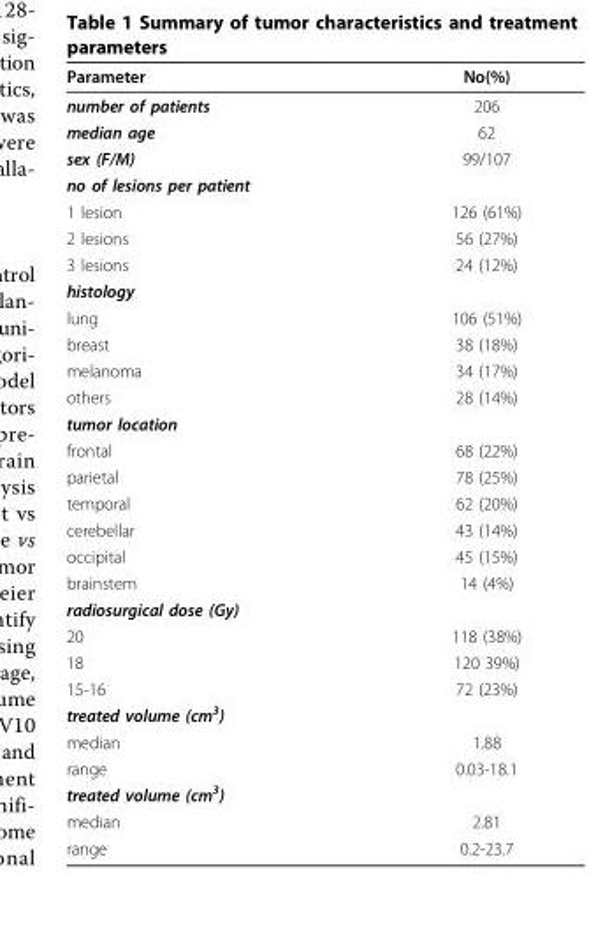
<table><thead><tr><td>Parameter</td><td>No(%)</td></tr></thead><tbody><tr><td>number of patients</td><td>206</td></tr><tr><td>median age</td><td>62</td></tr><tr><td>sex (F/M)</td><td>99/107</td></tr><tr><td colspan="2">no of lesions per patient</td></tr><tr><td>1 lesion</td><td>126 (61%)</td></tr><tr><td>2 lesions</td><td>56 (27%)</td></tr><tr><td>3 lesions</td><td>24 (12%)</td></tr><tr><td colspan="2">histology</td></tr><tr><td>lung</td><td>106 (51%)</td></tr><tr><td>breast</td><td>38 (18%)</td></tr><tr><td>melanoma</td><td>34 (17%)</td></tr><tr><td>others</td><td>28 (14%)</td></tr><tr><td colspan="2">tumor location</td></tr><tr><td>frontal</td><td>68 (22%)</td></tr><tr><td>parietal</td><td>78 (25%)</td></tr><tr><td>temporal</td><td>62 (20%)</td></tr><tr><td>cerebellar</td><td>43 (14%)</td></tr><tr><td>occipital</td><td>45 (15%)</td></tr><tr><td>brainstem</td><td>14 (4%)</td></tr><tr><td colspan="2">radiosurgical dose (Gy)</td></tr><tr><td>20</td><td>118 (38%)</td></tr><tr><td>18</td><td>120 39%)</td></tr><tr><td>15-16</td><td>72 (23%)</td></tr><tr><td colspan="2">treated volume (cm<sup>3</sup>)</td></tr><tr><td>median</td><td>1.88</td></tr><tr><td>range</td><td>0.03-18.1</td></tr><tr><td colspan="2">treated volume (cm<sup>3</sup>)</td></tr><tr><td>median</td><td>2.81</td></tr><tr><td>range</td><td>0.2-23.7</td></tr></tbody></table>